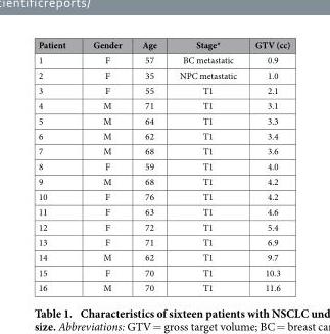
<table><thead><tr><td>Patient</td><td>Gender</td><td>Age</td><td>Stage*</td><td>GTV (cc)</td></tr></thead><tbody><tr><td>1</td><td>F</td><td>57</td><td>BC metastatic</td><td>0.9</td></tr><tr><td>2</td><td>F</td><td>35</td><td>NPC metastatic</td><td>1.0</td></tr><tr><td>3</td><td>F</td><td>55</td><td>T1</td><td>2.1</td></tr><tr><td>4</td><td>M</td><td>71</td><td>T1</td><td>3.1</td></tr><tr><td>5</td><td>M</td><td>64</td><td>T1</td><td>3.3</td></tr><tr><td>6</td><td>M</td><td>62</td><td>T1</td><td>3.4</td></tr><tr><td>7</td><td>M</td><td>68</td><td>T1</td><td>3.6</td></tr><tr><td>8</td><td>F</td><td>59</td><td>T1</td><td>4.0</td></tr><tr><td>9</td><td>M</td><td>68</td><td>T1</td><td>4.2</td></tr><tr><td>10</td><td>F</td><td>76</td><td>T1</td><td>4.2</td></tr><tr><td>11</td><td>F</td><td>63</td><td>T1</td><td>4.6</td></tr><tr><td>12</td><td>F</td><td>72</td><td>T1</td><td>5.4</td></tr><tr><td>13</td><td>F</td><td>71</td><td>T1</td><td>6.9</td></tr><tr><td>14</td><td>M</td><td>62</td><td>T1</td><td>9.7</td></tr><tr><td>15</td><td>F</td><td>70</td><td>T1</td><td>10.3</td></tr><tr><td>16</td><td>M</td><td>70</td><td>T1</td><td>11.6</td></tr></tbody></table>